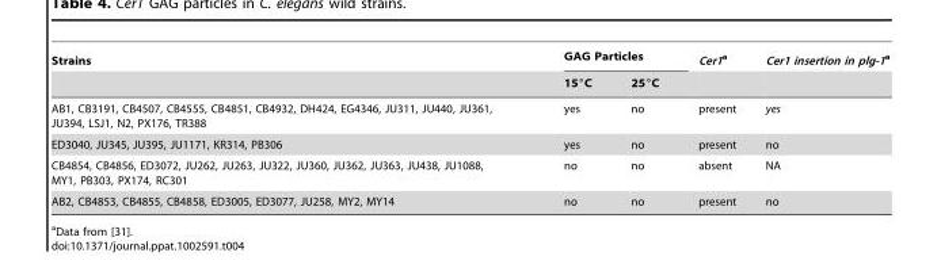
<table><thead><tr><td rowspan="2">Strains</td><td colspan="2">GAG Particles</td><td rowspan="2">Cer1a</td><td rowspan="2">Cer1 insertion in plg-1a</td></tr><tr><td>15°C</td><td>25°C</td></tr></thead><tbody><tr><td>AB1, CB3191, CB4507, CB4555, CB4851, CB4932, DH424, EG4346, JU311, JU440, JU361, JU394, LSJ1, N2, PX176, TR388</td><td>yes</td><td>no</td><td>present</td><td>yes</td></tr><tr><td>ED3040, JU345, JU395, JU1171, KR314, PB306</td><td>yes</td><td>no</td><td>present</td><td>no</td></tr><tr><td>CB4854, CB4856, ED3072, JU262, JU263, JU322, JU360, JU362, JU363, JU438, JU1088, MY1, PB303, PX174, RC301</td><td>no</td><td>no</td><td>absent</td><td>NA</td></tr><tr><td>AB2, CB4853, CB4855, CB4858, ED3005, ED3077, JU258, MY2, MY14</td><td>no</td><td>no</td><td>present</td><td>no</td></tr></tbody></table>